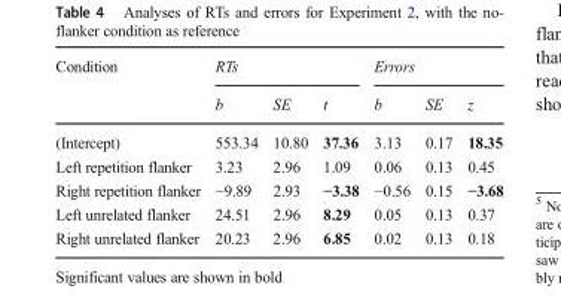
<table><thead><tr><td rowspan="2">Condition</td><td colspan="3">RTs</td><td colspan="3">Errors</td></tr><tr><td>b</td><td>SE</td><td>t</td><td>b</td><td>SE</td><td>z</td></tr></thead><tbody><tr><td>(Intercept)</td><td>553.34</td><td>10.80</td><td>37.36</td><td>3.13</td><td>0.17</td><td>18.35</td></tr><tr><td>Left repetition flanker</td><td>3.23</td><td>2.96</td><td>1.09</td><td>0.06</td><td>0.13</td><td>0.45</td></tr><tr><td>Right repetition flanker</td><td>−9.89</td><td>2.93</td><td>−3.38</td><td>−0.56</td><td>0.15</td><td>−3.68</td></tr><tr><td>Left unrelated flanker</td><td>24.51</td><td>2.96</td><td>8.29</td><td>0.05</td><td>0.13</td><td>0.37</td></tr><tr><td>Right unrelated flanker</td><td>20.23</td><td>2.96</td><td>6.85</td><td>0.02</td><td>0.13</td><td>0.18</td></tr></tbody></table>